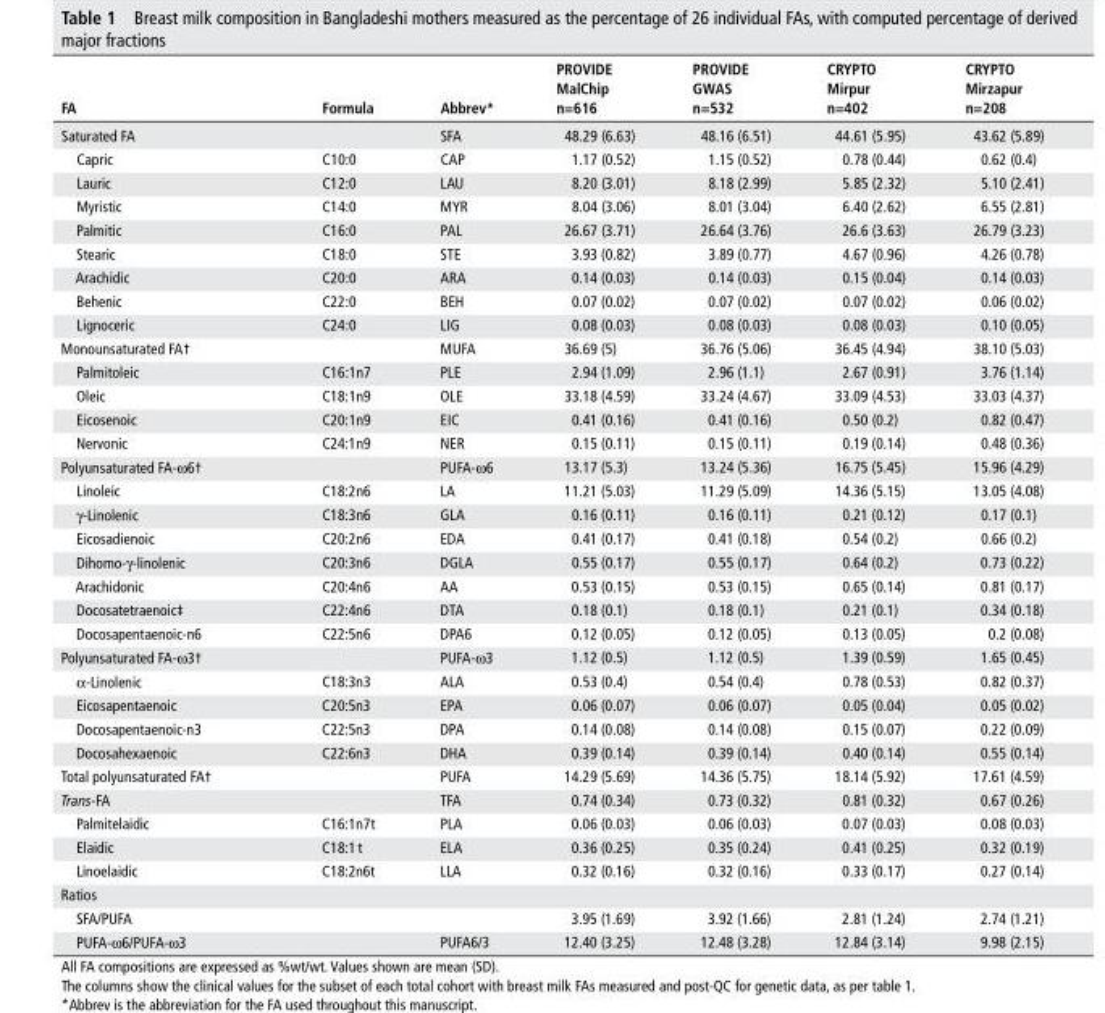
<table><thead><tr><td>FA</td><td>Formula</td><td>Abbrev*</td><td>ProVIde MalChip n=616</td><td>ProVIde GWAs n=532</td><td>CrYPTo Mirpur n=402</td><td>CrYPTo Mirzapur n=208</td></tr></thead><tbody><tr><td>Saturated FA</td><td></td><td>SFA</td><td>48.29 (6.63)</td><td>48.16 (6.51)</td><td>44.61 (5.95)</td><td>43.62 (5.89)</td></tr><tr><td>Capric</td><td>C10:0</td><td>CAP</td><td>1.17 (0.52)</td><td>1.15 (0.52)</td><td>0.78 (0.44)</td><td>0.62 (0.4)</td></tr><tr><td>Lauric</td><td>C12:0</td><td>LAU</td><td>8.20 (3.01)</td><td>8.18 (2.99)</td><td>5.85 (2.32)</td><td>5.10 (2.41)</td></tr><tr><td>Myristic</td><td>C14:0</td><td>MYR</td><td>8.04 (3.06)</td><td>8.01 (3.04)</td><td>6.40 (2.62)</td><td>6.55 (2.81)</td></tr><tr><td>Palmitic</td><td>C16:0</td><td>PAL</td><td>26.67 (3.71)</td><td>26.64 (3.76)</td><td>26.6 (3.63)</td><td>26.79 (3.23)</td></tr><tr><td>Stearic</td><td>C18:0</td><td>STE</td><td>3.93 (0.82)</td><td>3.89 (0.77)</td><td>4.67 (0.96)</td><td>4.26 (0.78)</td></tr><tr><td>Arachidic</td><td>C20:0</td><td>ARA</td><td>0.14 (0.03)</td><td>0.14 (0.03)</td><td>0.15 (0.04)</td><td>0.14 (0.03)</td></tr><tr><td>Behenic</td><td>C22:0</td><td>BEH</td><td>0.07 (0.02)</td><td>0.07 (0.02)</td><td>0.07 (0.02)</td><td>0.06 (0.02)</td></tr><tr><td>Lignoceric</td><td>C24:0</td><td>LIG</td><td>0.08 (0.03)</td><td>0.08 (0.03)</td><td>0.08 (0.03)</td><td>0.10 (0.05)</td></tr><tr><td>Monounsaturated FA†</td><td></td><td>MUFA</td><td>36.69 (5)</td><td>36.76 (5.06)</td><td>36.45 (4.94)</td><td>38.10 (5.03)</td></tr><tr><td>Palmitoleic</td><td>C16:1n7</td><td>PLE</td><td>2.94 (1.09)</td><td>2.96 (1.1)</td><td>2.67 (0.91)</td><td>3.76 (1.14)</td></tr><tr><td>Oleic</td><td>C18:1n9</td><td>OLE</td><td>33.18 (4.59)</td><td>33.24 (4.67)</td><td>33.09 (4.53)</td><td>33.03 (4.37)</td></tr><tr><td>Eicosenoic</td><td>C20:1n9</td><td>EIC</td><td>0.41 (0.16)</td><td>0.41 (0.16)</td><td>0.50 (0.2)</td><td>0.82 (0.47)</td></tr><tr><td>Nervonic</td><td>C24:1n9</td><td>NER</td><td>0.15 (0.11)</td><td>0.15 (0.11)</td><td>0.19 (0.14)</td><td>0.48 (0.36)</td></tr><tr><td>Polyunsaturated FA-ω6†</td><td></td><td>PUFA-ω6</td><td>13.17 (5.3)</td><td>13.24 (5.36)</td><td>16.75 (5.45)</td><td>15.96 (4.29)</td></tr><tr><td>Linoleic</td><td>C18:2n6</td><td>LA</td><td>11.21 (5.03)</td><td>11.29 (5.09)</td><td>14.36 (5.15)</td><td>13.05 (4.08)</td></tr><tr><td>γ-Linolenic</td><td>C18:3n6</td><td>GLA</td><td>0.16 (0.11)</td><td>0.16 (0.11)</td><td>0.21 (0.12)</td><td>0.17 (0.1)</td></tr><tr><td>Eicosadienoic</td><td>C20:2n6</td><td>EDA</td><td>0.41 (0.17)</td><td>0.41 (0.18)</td><td>0.54 (0.2)</td><td>0.66 (0.2)</td></tr><tr><td>Dihomo-γ-linolenic</td><td>C20:3n6</td><td>DGLA</td><td>0.55 (0.17)</td><td>0.55 (0.17)</td><td>0.64 (0.2)</td><td>0.73 (0.22)</td></tr><tr><td>Arachidonic</td><td>C20:4n6</td><td>AA</td><td>0.53 (0.15)</td><td>0.53 (0.15)</td><td>0.65 (0.14)</td><td>0.81 (0.17)</td></tr><tr><td>Docosatetraenoic‡</td><td>C22:4n6</td><td>DTA</td><td>0.18 (0.1)</td><td>0.18 (0.1)</td><td>0.21 (0.1)</td><td>0.34 (0.18)</td></tr><tr><td>Docosapentaenoic-n6</td><td>C22:5n6</td><td>DPA6</td><td>0.12 (0.05)</td><td>0.12 (0.05)</td><td>0.13 (0.05)</td><td>0.2 (0.08)</td></tr><tr><td>Polyunsaturated FA-ω3†</td><td></td><td>PUFA-ω3</td><td>1.12 (0.5)</td><td>1.12 (0.5)</td><td>1.39 (0.59)</td><td>1.65 (0.45)</td></tr><tr><td>α-Linolenic</td><td>C18:3n3</td><td>ALA</td><td>0.53 (0.4)</td><td>0.54 (0.4)</td><td>0.78 (0.53)</td><td>0.82 (0.37)</td></tr><tr><td>Eicosapentaenoic</td><td>C20:5n3</td><td>EPA</td><td>0.06 (0.07)</td><td>0.06 (0.07)</td><td>0.05 (0.04)</td><td>0.05 (0.02)</td></tr><tr><td>Docosapentaenoic-n3</td><td>C22:5n3</td><td>DPA</td><td>0.14 (0.08)</td><td>0.14 (0.08)</td><td>0.15 (0.07)</td><td>0.22 (0.09)</td></tr><tr><td>Docosahexaenoic</td><td>C22:6n3</td><td>DHA</td><td>0.39 (0.14)</td><td>0.39 (0.14)</td><td>0.40 (0.14)</td><td>0.55 (0.14)</td></tr><tr><td>Total polyunsaturated FA†</td><td></td><td>PUFA</td><td>14.29 (5.69)</td><td>14.36 (5.75)</td><td>18.14 (5.92)</td><td>17.61 (4.59)</td></tr><tr><td>Trans-FA</td><td></td><td>TFA</td><td>0.74 (0.34)</td><td>0.73 (0.32)</td><td>0.81 (0.32)</td><td>0.67 (0.26)</td></tr><tr><td>Palmitelaidic</td><td>C16:1n7t</td><td>PLA</td><td>0.06 (0.03)</td><td>0.06 (0.03)</td><td>0.07 (0.03)</td><td>0.08 (0.03)</td></tr><tr><td>Elaidic</td><td>C18:1 t</td><td>ELA</td><td>0.36 (0.25)</td><td>0.35 (0.24)</td><td>0.41 (0.25)</td><td>0.32 (0.19)</td></tr><tr><td>Linoelaidic</td><td>C18:2n6t</td><td>LLA</td><td>0.32 (0.16)</td><td>0.32 (0.16)</td><td>0.33 (0.17)</td><td>0.27 (0.14)</td></tr><tr><td colspan="7">Ratios</td></tr><tr><td>SFA/PUFA</td><td></td><td></td><td>3.95 (1.69)</td><td>3.92 (1.66)</td><td>2.81 (1.24)</td><td>2.74 (1.21)</td></tr><tr><td>PUFA-ω6/PUFA-ω3</td><td></td><td>PUFA6/3</td><td>12.40 (3.25)</td><td>12.48 (3.28)</td><td>12.84 (3.14)</td><td>9.98 (2.15)</td></tr></tbody></table>